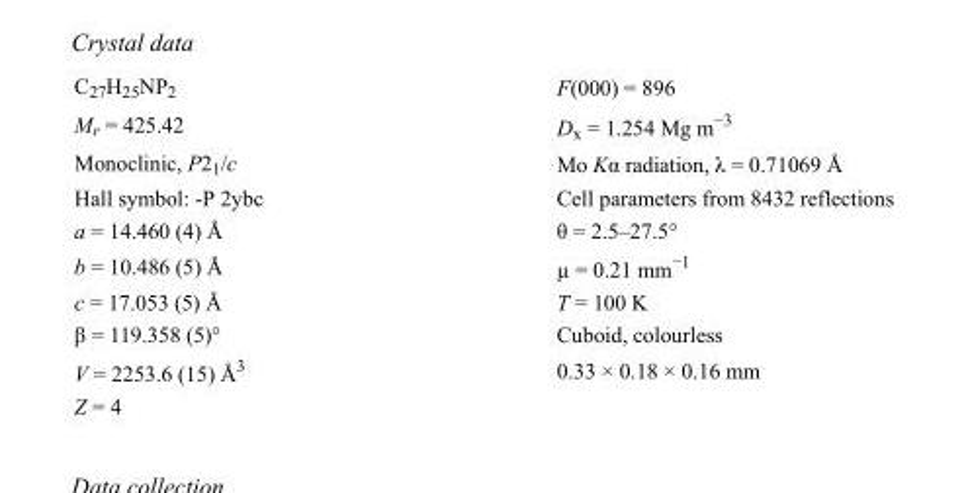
<table><tbody><tr><td>C<sub>27</sub>H<sub>25</sub>NP<sub>2</sub></td><td>F(000) = 896</td></tr><tr><td>M<sub>r</sub> = 425.42</td><td>D<sub>x</sub> = 1.254 Mg m<sup>−3</sup></td></tr><tr><td>Monoclinic, P2<sub>1</sub>/c</td><td>Mo Kα radiation, λ = 0.71069 Å</td></tr><tr><td>Hall symbol: -P 2ybc</td><td>Cell parameters from 8432 reflections</td></tr><tr><td>a = 14.460 (4) Å</td><td>θ = 2.5–27.5°</td></tr><tr><td>b = 10.486 (5) Å</td><td>µ = 0.21 mm<sup>−1</sup></td></tr><tr><td>c = 17.053 (5) Å</td><td>T = 100 K</td></tr><tr><td>β = 119.358 (5)°</td><td>Cuboid, colourless</td></tr><tr><td>V = 2253.6 (15) Å<sup>3</sup></td><td>0.33 × 0.18 × 0.16 mm</td></tr><tr><td>Z = 4</td><td></td></tr></tbody></table>